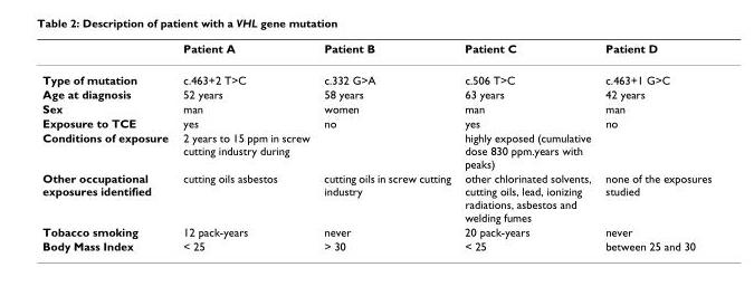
<table><thead><tr><td></td><td>Patient A</td><td>Patient B</td><td>Patient C</td><td>Patient D</td></tr></thead><tbody><tr><td>Type of mutation</td><td>c.463+2 T&gt;C</td><td>c.332 G&gt;A</td><td>c.506 T&gt;C</td><td>c.463+1 G&gt;C</td></tr><tr><td>Age at diagnosis</td><td>52 years</td><td>58 years</td><td>63 years</td><td>42 years</td></tr><tr><td>Sex</td><td>man</td><td>women</td><td>man</td><td>man</td></tr><tr><td>Exposure to TCE</td><td>yes</td><td>no</td><td>yes</td><td>no</td></tr><tr><td>Conditions of exposure</td><td>2 years to 15 ppm in screw cutting industry during</td><td></td><td>highly exposed (cumulative dose 830 ppm.years with peaks)</td><td></td></tr><tr><td>Other occupational exposures identified</td><td>cutting oils asbestos</td><td>cutting oils in screw cutting industry</td><td>other chlorinated solvents, cutting oils, lead, ionizing radiations, asbestos and welding fumes</td><td>none of the exposures studied</td></tr><tr><td>Tobacco smoking</td><td>12 pack-years</td><td>never</td><td>20 pack-years</td><td>never</td></tr><tr><td>Body Mass Index</td><td>&lt; 25</td><td>&gt; 30</td><td>&lt; 25</td><td>between 25 and 30</td></tr></tbody></table>